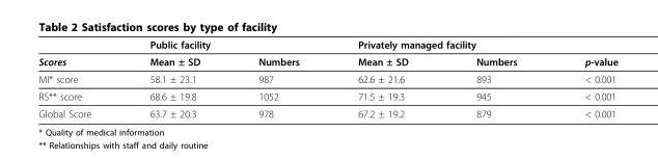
<table><thead><tr><td rowspan="2">Scores</td><td colspan="2">Public facility</td><td colspan="2">Privately managed facility</td><td rowspan="2">p-value</td></tr><tr><td>Mean ± SD</td><td>Numbers</td><td>Mean ± SD</td><td>Numbers</td></tr></thead><tbody><tr><td>MI* score</td><td>58.1 ± 23.1</td><td>987</td><td>62.6 ± 21.6</td><td>893</td><td>&lt; 0.001</td></tr><tr><td>RS** score</td><td>68.6 ± 19.8</td><td>1052</td><td>71.5 ± 19.3</td><td>945</td><td>&lt; 0.001</td></tr><tr><td>Global Score</td><td>63.7 ± 20.3</td><td>978</td><td>67.2 ± 19.2</td><td>879</td><td>&lt; 0.001</td></tr></tbody></table>